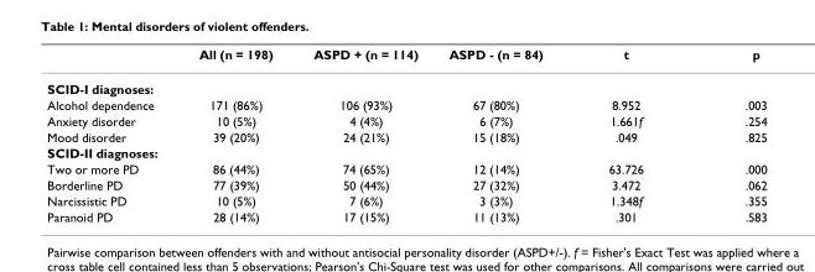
<table><thead><tr><td></td><td>All (n = 198)</td><td>ASPD + (n = 114)</td><td>ASPD - (n = 84)</td><td>t</td><td>p</td></tr></thead><tbody><tr><td colspan="6">SCID-I diagnoses:</td></tr><tr><td>Alcohol dependence</td><td>171 (86%)</td><td>106 (93%)</td><td>67 (80%)</td><td>8.952</td><td>.003</td></tr><tr><td>Anxiety disorder</td><td>10 (5%)</td><td>4 (4%)</td><td>6 (7%)</td><td>1.661f</td><td>.254</td></tr><tr><td>Mood disorder</td><td>39 (20%)</td><td>24 (21%)</td><td>15 (18%)</td><td>.049</td><td>.825</td></tr><tr><td colspan="6">SCID-II diagnoses:</td></tr><tr><td>Two or more PD</td><td>86 (44%)</td><td>74 (65%)</td><td>12 (14%)</td><td>63.726</td><td>.000</td></tr><tr><td>Borderline PD</td><td>77 (39%)</td><td>50 (44%)</td><td>27 (32%)</td><td>3.472</td><td>.062</td></tr><tr><td>Narcissistic PD</td><td>10 (5%)</td><td>7 (6%)</td><td>3 (3%)</td><td>1.348f</td><td>.355</td></tr><tr><td>Paranoid PD</td><td>28 (14%)</td><td>17 (15%)</td><td>11 (13%)</td><td>.301</td><td>.583</td></tr></tbody></table>